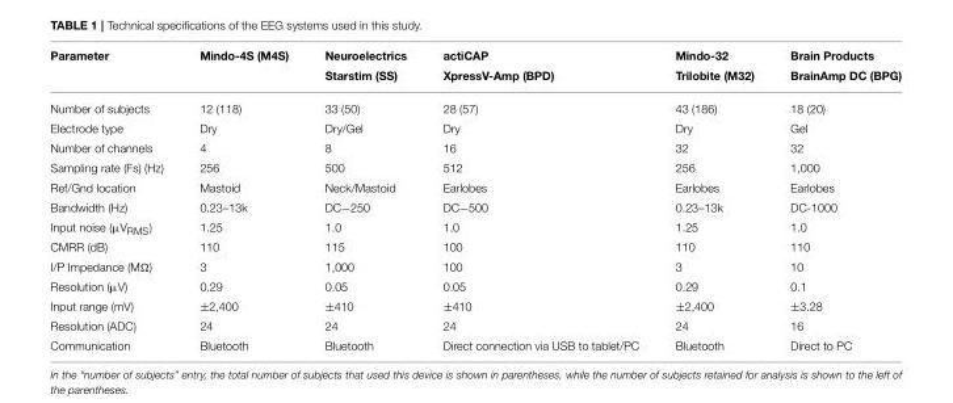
<table><thead><tr><td>Parameter</td><td>Mindo-4S (M4S)</td><td>Neuroelectrics Starstim (SS)</td><td>actiCAP XpressV-Amp (BPD)</td><td>Mindo-32 Trilobite (M32)</td><td>Brain Products BrainAmp DC (BPG)</td></tr></thead><tbody><tr><td>Number of subjects</td><td>12 (118)</td><td>33 (50)</td><td>28 (57)</td><td>43 (186)</td><td>18 (20)</td></tr><tr><td>Electrode type</td><td>Dry</td><td>Dry/Gel</td><td>Dry</td><td>Dry</td><td>Gel</td></tr><tr><td>Number of channels</td><td>4</td><td>8</td><td>16</td><td>32</td><td>32</td></tr><tr><td>Sampling rate (Fs) (Hz)</td><td>256</td><td>500</td><td>512</td><td>256</td><td>1,000</td></tr><tr><td>Ref/Gnd location</td><td>Mastoid</td><td>Neck/Mastoid</td><td>Earlobes</td><td>Earlobes</td><td>Earlobes</td></tr><tr><td>Bandwidth (Hz)</td><td>0.23–13k</td><td>DC−250</td><td>DC−500</td><td>0.23–13k</td><td>DC-1000</td></tr><tr><td>Input noise (µV<sub>RMS</sub>)</td><td>1.25</td><td>1.0</td><td>1.0</td><td>1.25</td><td>1.0</td></tr><tr><td>CMRR (dB)</td><td>110</td><td>115</td><td>100</td><td>110</td><td>110</td></tr><tr><td>I/P Impedance (MΩ)</td><td>3</td><td>1,000</td><td>100</td><td>3</td><td>10</td></tr><tr><td>Resolution (µV)</td><td>0.29</td><td>0.05</td><td>0.05</td><td>0.29</td><td>0.1</td></tr><tr><td>Input range (mV)</td><td>±2,400</td><td>±410</td><td>±410</td><td>±2,400</td><td>±3.28</td></tr><tr><td>Resolution (ADC)</td><td>24</td><td>24</td><td>24</td><td>24</td><td>16</td></tr><tr><td>Communication</td><td>Bluetooth</td><td>Bluetooth</td><td>Direct connection via USB to tablet/PC</td><td>Bluetooth</td><td>Direct to PC</td></tr></tbody></table>